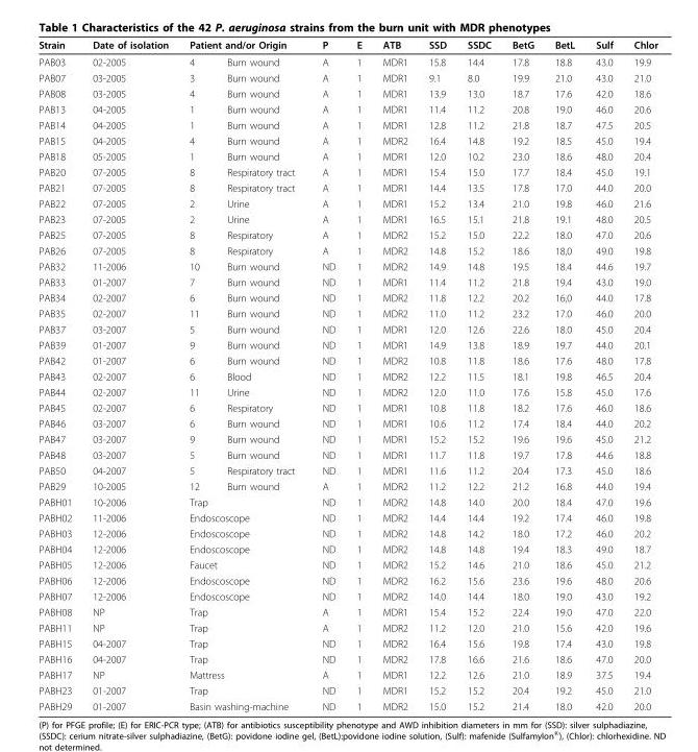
<table><thead><tr><td rowspan="2">Strain PAB03</td><td rowspan="2">Date of isolation 02-2005</td><td colspan="2">Patient and/or Origin</td><td rowspan="2">P A</td><td rowspan="2">E 1</td><td rowspan="2">ATB MDR1</td><td rowspan="2">SSD 15.8</td><td rowspan="2">SSDC 14.4</td><td rowspan="2">BetG 17.8</td><td rowspan="2">BetL 18.8</td><td rowspan="2">Sulf 43.0</td><td rowspan="2">Chlor 19.9</td></tr><tr><td>4</td><td>Burn wound</td></tr></thead><tbody><tr><td>PAB07</td><td>03-2005</td><td>3</td><td>Burn wound</td><td>A</td><td>1</td><td>MDR1</td><td>9.1</td><td>8.0</td><td>19.9</td><td>21.0</td><td>43.0</td><td>21.0</td></tr><tr><td>PAB08</td><td>03-2005</td><td>4</td><td>Burn wound</td><td>A</td><td>1</td><td>MDR1</td><td>13.9</td><td>13.0</td><td>18.7</td><td>17.6</td><td>42.0</td><td>18.6</td></tr><tr><td>PAB13</td><td>04-2005</td><td>1</td><td>Burn wound</td><td>A</td><td>1</td><td>MDR1</td><td>11.4</td><td>11.2</td><td>20.8</td><td>19.0</td><td>46.0</td><td>20.6</td></tr><tr><td>PAB14</td><td>04-2005</td><td>1</td><td>Burn wound</td><td>A</td><td>1</td><td>MDR1</td><td>12.8</td><td>11.2</td><td>21.8</td><td>18.7</td><td>47.5</td><td>20.5</td></tr><tr><td>PAB15</td><td>04-2005</td><td>4</td><td>Burn wound</td><td>A</td><td>1</td><td>MDR2</td><td>16.4</td><td>14.8</td><td>19.2</td><td>18.5</td><td>45.0</td><td>19.4</td></tr><tr><td>PAB18</td><td>05-2005</td><td>1</td><td>Burn wound</td><td>A</td><td>1</td><td>MDR1</td><td>12.0</td><td>10.2</td><td>23.0</td><td>18.6</td><td>48.0</td><td>20.4</td></tr><tr><td>PAB20</td><td>07-2005</td><td>8</td><td>Respiratory tract</td><td>A</td><td>1</td><td>MDR1</td><td>15.4</td><td>15.0</td><td>17.7</td><td>18.4</td><td>45.0</td><td>19.1</td></tr><tr><td>PAB21</td><td>07-2005</td><td>8</td><td>Respiratory tract</td><td>A</td><td>1</td><td>MDR1</td><td>14.4</td><td>13.5</td><td>17.8</td><td>17.0</td><td>44.0</td><td>20.0</td></tr><tr><td>PAB22</td><td>07-2005</td><td>2</td><td>Urine</td><td>A</td><td>1</td><td>MDR1</td><td>15.2</td><td>13.4</td><td>21.0</td><td>19.8</td><td>46.0</td><td>21.6</td></tr><tr><td>PAB23</td><td>07-2005</td><td>2</td><td>Urine</td><td>A</td><td>1</td><td>MDR1</td><td>16.5</td><td>15.1</td><td>21.8</td><td>19.1</td><td>48.0</td><td>20.5</td></tr><tr><td>PAB25</td><td>07-2005</td><td>8</td><td>Respiratory</td><td>A</td><td>1</td><td>MDR2</td><td>15.2</td><td>15.0</td><td>22.2</td><td>18.0</td><td>47.0</td><td>20.6</td></tr><tr><td>PAB26</td><td>07-2005</td><td>8</td><td>Respiratory</td><td>A</td><td>1</td><td>MDR2</td><td>14.8</td><td>15.2</td><td>18.6</td><td>18,0</td><td>49.0</td><td>19.8</td></tr><tr><td>PAB32</td><td>11-2006</td><td>10</td><td>Burn wound</td><td>ND</td><td>1</td><td>MDR2</td><td>14.9</td><td>14.8</td><td>19.5</td><td>18.4</td><td>44.6</td><td>19.7</td></tr><tr><td>PAB33</td><td>01-2007</td><td>7</td><td>Burn wound</td><td>ND</td><td>1</td><td>MDR1</td><td>11.4</td><td>11.2</td><td>21.8</td><td>19.4</td><td>43.0</td><td>19.0</td></tr><tr><td>PAB34</td><td>02-2007</td><td>6</td><td>Burn wound</td><td>ND</td><td>1</td><td>MDR2</td><td>11.8</td><td>12.2</td><td>20.2</td><td>16,0</td><td>44.0</td><td>17.8</td></tr><tr><td>PAB35</td><td>02-2007</td><td>11</td><td>Burn wound</td><td>ND</td><td>1</td><td>MDR2</td><td>11.0</td><td>11.2</td><td>23.2</td><td>17.0</td><td>46.0</td><td>20.0</td></tr><tr><td>PAB37</td><td>03-2007</td><td>5</td><td>Burn wound</td><td>ND</td><td>1</td><td>MDR1</td><td>12.0</td><td>12.6</td><td>22.6</td><td>18.0</td><td>45.0</td><td>20.4</td></tr><tr><td>PAB39</td><td>01-2007</td><td>9</td><td>Burn wound</td><td>ND</td><td>1</td><td>MDR1</td><td>14.9</td><td>13.8</td><td>18.9</td><td>19.7</td><td>44.0</td><td>20.1</td></tr><tr><td>PAB42</td><td>01-2007</td><td>6</td><td>Burn wound</td><td>ND</td><td>1</td><td>MDR2</td><td>10.8</td><td>11.8</td><td>18.6</td><td>17.6</td><td>48.0</td><td>17.8</td></tr><tr><td>PAB43</td><td>02-2007</td><td>6</td><td>Blood</td><td>ND</td><td>1</td><td>MDR2</td><td>12.2</td><td>11.5</td><td>18.1</td><td>19.8</td><td>46.5</td><td>20.4</td></tr><tr><td>PAB44</td><td>02-2007</td><td>11</td><td>Urine</td><td>ND</td><td>1</td><td>MDR2</td><td>12.0</td><td>11.0</td><td>17.6</td><td>15.8</td><td>45.0</td><td>17.6</td></tr><tr><td>PAB45</td><td>02-2007</td><td>6</td><td>Respiratory</td><td>ND</td><td>1</td><td>MDR1</td><td>10.8</td><td>11.8</td><td>18.2</td><td>17.6</td><td>46.0</td><td>18.6</td></tr><tr><td>PAB46</td><td>03-2007</td><td>6</td><td>Burn wound</td><td>ND</td><td>1</td><td>MDR1</td><td>10.6</td><td>11.2</td><td>17.4</td><td>18.4</td><td>44.0</td><td>20.2</td></tr><tr><td>PAB47</td><td>03-2007</td><td>9</td><td>Burn wound</td><td>ND</td><td>1</td><td>MDR1</td><td>15.2</td><td>15.2</td><td>19.6</td><td>19.6</td><td>45.0</td><td>21.2</td></tr><tr><td>PAB48</td><td>03-2007</td><td>5</td><td>Burn wound</td><td>ND</td><td>1</td><td>MDR1</td><td>11.7</td><td>11.8</td><td>19.7</td><td>17.8</td><td>44.6</td><td>18.8</td></tr><tr><td>PAB50</td><td>04-2007</td><td>5</td><td>Respiratory tract</td><td>ND</td><td>1</td><td>MDR1</td><td>11.6</td><td>11.2</td><td>20.4</td><td>17.3</td><td>45.0</td><td>18.6</td></tr><tr><td>PAB29</td><td>10-2005</td><td>12</td><td>Burn wound</td><td>A</td><td>1</td><td>MDR2</td><td>11.2</td><td>12.2</td><td>21.2</td><td>16.8</td><td>44.0</td><td>19.4</td></tr><tr><td>PABH01</td><td>10-2006</td><td colspan="2">Trap</td><td>ND</td><td>1</td><td>MDR2</td><td>14.8</td><td>14.0</td><td>20.0</td><td>18.4</td><td>47.0</td><td>19.6</td></tr><tr><td>PABH02</td><td>11-2006</td><td colspan="2">Endoscoscope</td><td>ND</td><td>1</td><td>MDR2</td><td>14.4</td><td>14.4</td><td>19.2</td><td>17.4</td><td>46.0</td><td>19.8</td></tr><tr><td>PABH03</td><td>12-2006</td><td colspan="2">Endoscoscope</td><td>ND</td><td>1</td><td>MDR2</td><td>14.8</td><td>14.2</td><td>18.0</td><td>17.2</td><td>46.0</td><td>20.2</td></tr><tr><td>PABH04</td><td>12-2006</td><td colspan="2">Endoscoscope</td><td>ND</td><td>1</td><td>MDR2</td><td>14.8</td><td>14.8</td><td>19.4</td><td>18.3</td><td>49.0</td><td>18.7</td></tr><tr><td>PABH05</td><td>12-2006</td><td colspan="2">Faucet</td><td>ND</td><td>1</td><td>MDR2</td><td>15.2</td><td>14.6</td><td>21.0</td><td>18.6</td><td>45.0</td><td>21.2</td></tr><tr><td>PABH06</td><td>12-2006</td><td colspan="2">Endoscoscope</td><td>ND</td><td>1</td><td>MDR2</td><td>16.2</td><td>15.6</td><td>23.6</td><td>19.6</td><td>48.0</td><td>20.6</td></tr><tr><td>PABH07</td><td>12-2006</td><td colspan="2">Endoscoscope</td><td>ND</td><td>1</td><td>MDR2</td><td>14.0</td><td>14.4</td><td>18.0</td><td>19.0</td><td>43.0</td><td>19.2</td></tr><tr><td>PABH08</td><td>NP</td><td colspan="2">Trap</td><td>A</td><td>1</td><td>MDR1</td><td>15.4</td><td>15.2</td><td>22.4</td><td>19.0</td><td>47.0</td><td>22.0</td></tr><tr><td>PABH11</td><td>NP</td><td colspan="2">Trap</td><td>A</td><td>1</td><td>MDR2</td><td>11.2</td><td>12.0</td><td>21.0</td><td>15.6</td><td>42.0</td><td>19.6</td></tr><tr><td>PABH15</td><td>04-2007</td><td colspan="2">Trap</td><td>ND</td><td>1</td><td>MDR2</td><td>16.4</td><td>15.6</td><td>19.8</td><td>17.4</td><td>43.0</td><td>19.8</td></tr><tr><td>PABH16</td><td>04-2007</td><td colspan="2">Trap</td><td>ND</td><td>1</td><td>MDR2</td><td>17.8</td><td>16.6</td><td>21.6</td><td>18.6</td><td>47.0</td><td>20.0</td></tr><tr><td>PABH17</td><td>NP</td><td colspan="2">Mattress</td><td>A</td><td>1</td><td>MDR1</td><td>12.2</td><td>12.6</td><td>21.0</td><td>18.9</td><td>37.5</td><td>19.4</td></tr><tr><td>PABH23</td><td>01-2007</td><td colspan="2">Trap</td><td>ND</td><td>1</td><td>MDR1</td><td>15.2</td><td>15.2</td><td>20.4</td><td>19.2</td><td>45.0</td><td>21.0</td></tr><tr><td>PABH29</td><td>01-2007</td><td colspan="2">Basin washing-machine</td><td>ND</td><td>1</td><td>MDR2</td><td>15.0</td><td>15.2</td><td>21.4</td><td>18.0</td><td>42.0</td><td>20.0</td></tr></tbody></table>